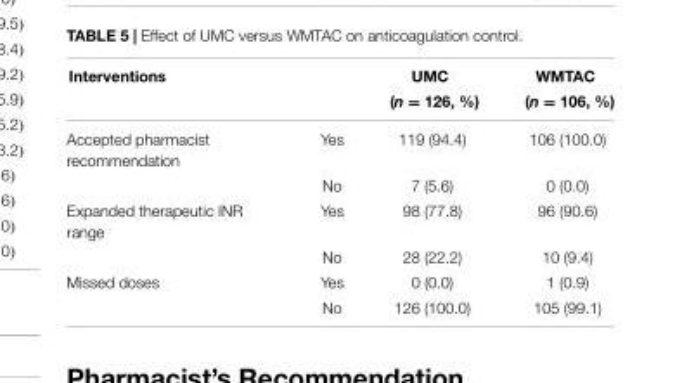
<table><thead><tr><td colspan="2">Interventions</td><td rowspan="2">UMC (n = 126, %)</td><td rowspan="2">WMTAC (n = 106, %)</td></tr><tr><td></td><td></td></tr></thead><tbody><tr><td rowspan="2">Accepted pharmacist recommendation</td><td>Yes</td><td>119 (94.4)</td><td>106 (100.0)</td></tr><tr><td>No</td><td>7 (5.6)</td><td>0 (0.0)</td></tr><tr><td rowspan="2">Expanded therapeutic INR range</td><td>Yes</td><td>98 (77.8)</td><td>96 (90.6)</td></tr><tr><td>No</td><td>28 (22.2)</td><td>10 (9.4)</td></tr><tr><td rowspan="2">Missed doses</td><td>Yes</td><td>0 (0.0)</td><td>1 (0.9)</td></tr><tr><td>No</td><td>126 (100.0)</td><td>105 (99.1)</td></tr></tbody></table>